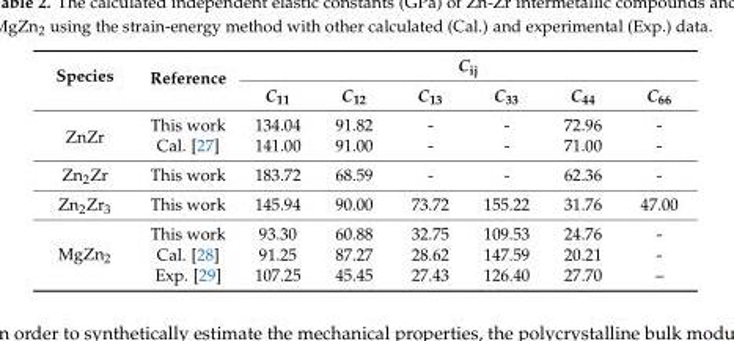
<table><thead><tr><td rowspan="2">Species</td><td rowspan="2">Reference</td><td colspan="6">C<sub>ij</sub></td></tr><tr><td>C<sub>11</sub></td><td>C<sub>12</sub></td><td>C<sub>13</sub></td><td>C<sub>33</sub></td><td>C<sub>44</sub></td><td>C<sub>66</sub></td></tr></thead><tbody><tr><td rowspan="2">ZnZr</td><td>This work</td><td>134.04</td><td>91.82</td><td>-</td><td>-</td><td>72.96</td><td>-</td></tr><tr><td>Cal. [27]</td><td>141.00</td><td>91.00</td><td>-</td><td>-</td><td>71.00</td><td>-</td></tr><tr><td>Zn<sub>2</sub>Zr</td><td>This work</td><td>183.72</td><td>68.59</td><td>-</td><td>-</td><td>62.36</td><td>-</td></tr><tr><td>Zn<sub>2</sub>Zr<sub>3</sub></td><td>This work</td><td>145.94</td><td>90.00</td><td>73.72</td><td>155.22</td><td>31.76</td><td>47.00</td></tr><tr><td rowspan="3">MgZn<sub>2</sub></td><td>This work</td><td>93.30</td><td>60.88</td><td>32.75</td><td>109.53</td><td>24.76</td><td>-</td></tr><tr><td>Cal. [28]</td><td>91.25</td><td>87.27</td><td>28.62</td><td>147.59</td><td>20.21</td><td>-</td></tr><tr><td>Exp. [29]</td><td>107.25</td><td>45.45</td><td>27.43</td><td>126.40</td><td>27.70</td><td>–</td></tr></tbody></table>